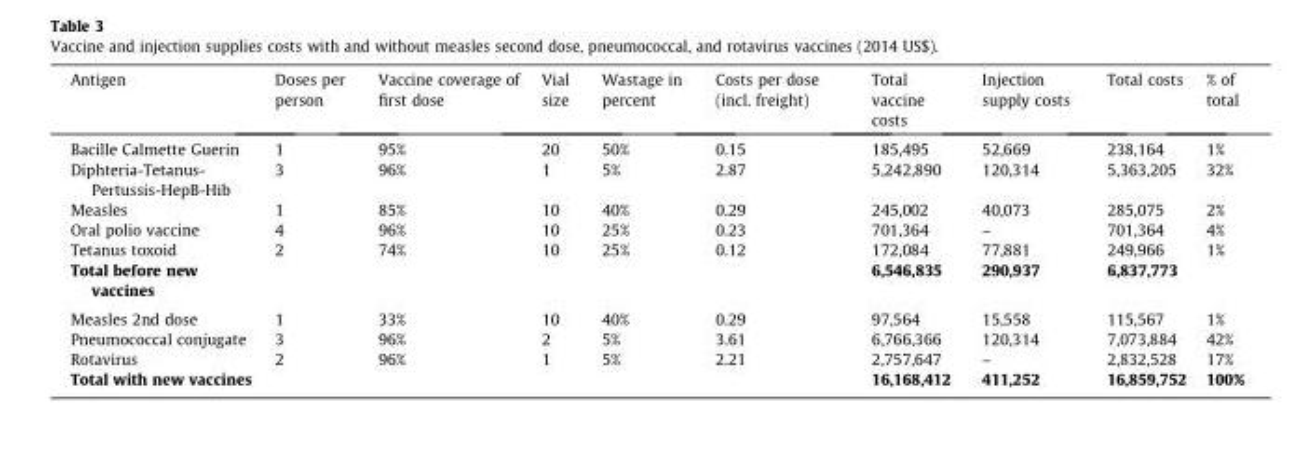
<table><thead><tr><td>Antigen</td><td>Doses per person</td><td>Vaccine coverage of first dose</td><td>Vial size</td><td>Wastage in percent</td><td>Costs per dose (incl. freight)</td><td>Total vaccine costs</td><td>Injection supply costs</td><td>Total costs</td><td>% of total</td></tr></thead><tbody><tr><td>Bacille Calmette Guerin</td><td>1</td><td>95%</td><td>20</td><td>50%</td><td>0.15</td><td>185,495</td><td>52,669</td><td>238,164</td><td>1%</td></tr><tr><td>Diphteria-Tetanus- Pertussis-HepB-Hib</td><td>3</td><td>96%</td><td>1</td><td>5%</td><td>2.87</td><td>5,242,890</td><td>120,314</td><td>5,363,205</td><td>32%</td></tr><tr><td>Measles</td><td>1</td><td>85%</td><td>10</td><td>40%</td><td>0.29</td><td>245,002</td><td>40,073</td><td>285,075</td><td>2%</td></tr><tr><td>Oral polio vaccine</td><td>4</td><td>96%</td><td>10</td><td>25%</td><td>0.23</td><td>701,364</td><td>–</td><td>701,364</td><td>4%</td></tr><tr><td>Tetanus toxoid</td><td>2</td><td>74%</td><td>10</td><td>25%</td><td>0.12</td><td>172,084</td><td>77,881</td><td>249,966</td><td>1%</td></tr><tr><td>Total before new vaccines</td><td></td><td></td><td></td><td></td><td></td><td>6,546,835</td><td>290,937</td><td>6,837,773</td><td></td></tr><tr><td>Measles 2nd dose</td><td>1</td><td>33%</td><td>10</td><td>40%</td><td>0.29</td><td>97,564</td><td>15,558</td><td>115,567</td><td>1%</td></tr><tr><td>Pneumococcal conjugate</td><td>3</td><td>96%</td><td>2</td><td>5%</td><td>3.61</td><td>6,766,366</td><td>120,314</td><td>7,073,884</td><td>42%</td></tr><tr><td>Rotavirus</td><td>2</td><td>96%</td><td>1</td><td>5%</td><td>2.21</td><td>2,757,647</td><td>–</td><td>2,832,528</td><td>17%</td></tr><tr><td>Total with new vaccines</td><td></td><td></td><td></td><td></td><td></td><td>16,168,412</td><td>411,252</td><td>16,859,752</td><td>100%</td></tr></tbody></table>